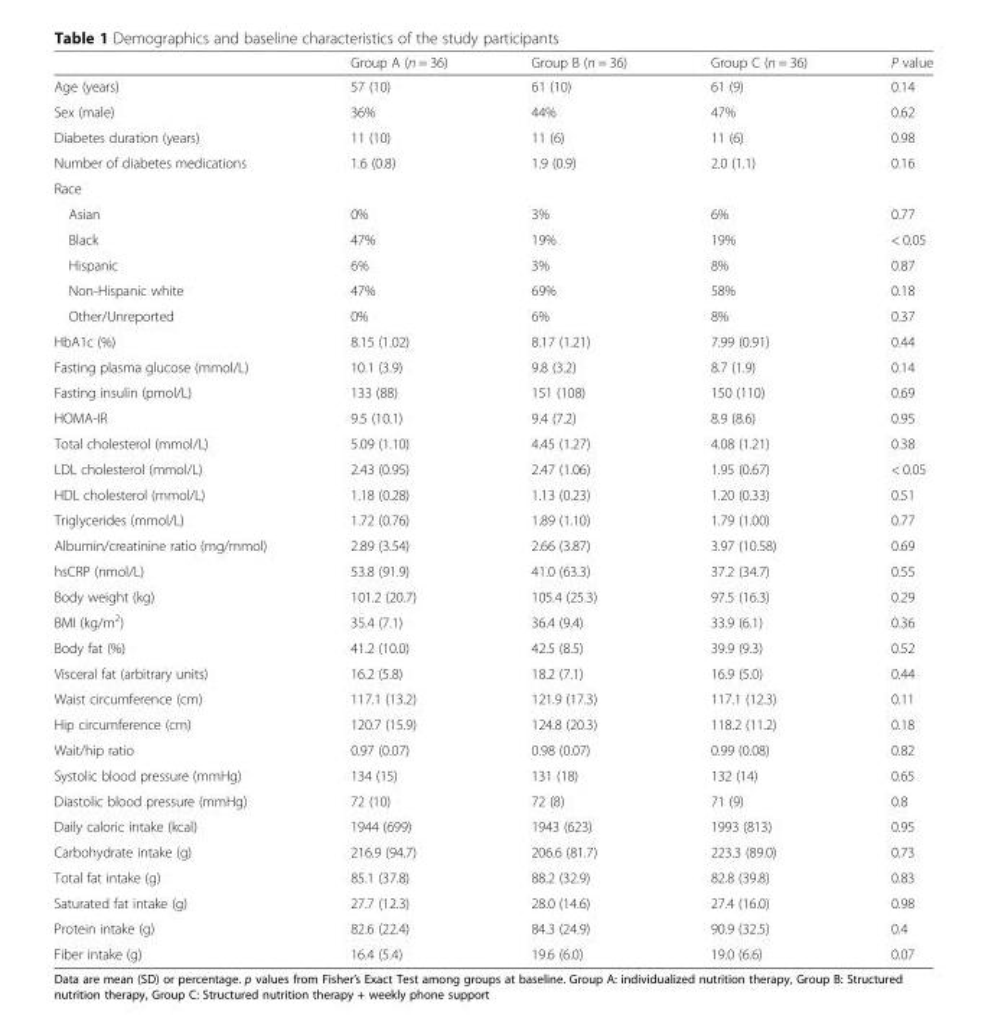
<table><thead><tr><td></td><td>Group A (n = 36)</td><td>Group B (n = 36)</td><td>Group C (n = 36)</td><td>P value</td></tr></thead><tbody><tr><td>Age (years)</td><td>57 (10)</td><td>61 (10)</td><td>61 (9)</td><td>0.14</td></tr><tr><td>Sex (male)</td><td>36%</td><td>44%</td><td>47%</td><td>0.62</td></tr><tr><td>Diabetes duration (years)</td><td>11 (10)</td><td>11 (6)</td><td>11 (6)</td><td>0.98</td></tr><tr><td>Number of diabetes medications</td><td>1.6 (0.8)</td><td>1.9 (0.9)</td><td>2.0 (1.1)</td><td>0.16</td></tr><tr><td colspan="5">Race</td></tr><tr><td>Asian</td><td>0%</td><td>3%</td><td>6%</td><td>0.77</td></tr><tr><td>Black</td><td>47%</td><td>19%</td><td>19%</td><td>&lt; 0.05</td></tr><tr><td>Hispanic</td><td>6%</td><td>3%</td><td>8%</td><td>0.87</td></tr><tr><td>Non-Hispanic white</td><td>47%</td><td>69%</td><td>58%</td><td>0.18</td></tr><tr><td>Other/Unreported</td><td>0%</td><td>6%</td><td>8%</td><td>0.37</td></tr><tr><td>HbA1c (%)</td><td>8.15 (1.02)</td><td>8.17 (1.21)</td><td>7.99 (0.91)</td><td>0.44</td></tr><tr><td>Fasting plasma glucose (mmol/L)</td><td>10.1 (3.9)</td><td>9.8 (3.2)</td><td>8.7 (1.9)</td><td>0.14</td></tr><tr><td>Fasting insulin (pmol/L)</td><td>133 (88)</td><td>151 (108)</td><td>150 (110)</td><td>0.69</td></tr><tr><td>HOMA-IR</td><td>9.5 (10.1)</td><td>9.4 (7.2)</td><td>8.9 (8.6)</td><td>0.95</td></tr><tr><td>Total cholesterol (mmol/L)</td><td>5.09 (1.10)</td><td>4.45 (1.27)</td><td>4.08 (1.21)</td><td>0.38</td></tr><tr><td>LDL cholesterol (mmol/L)</td><td>2.43 (0.95)</td><td>2.47 (1.06)</td><td>1.95 (0.67)</td><td>&lt; 0.05</td></tr><tr><td>HDL cholesterol (mmol/L)</td><td>1.18 (0.28)</td><td>1.13 (0.23)</td><td>1.20 (0.33)</td><td>0.51</td></tr><tr><td>Triglycerides (mmol/L)</td><td>1.72 (0.76)</td><td>1.89 (1.10)</td><td>1.79 (1.00)</td><td>0.77</td></tr><tr><td>Albumin/creatinine ratio (mg/mmol)</td><td>2.89 (3.54)</td><td>2.66 (3.87)</td><td>3.97 (10.58)</td><td>0.69</td></tr><tr><td>hsCRP (nmol/L)</td><td>53.8 (91.9)</td><td>41.0 (63.3)</td><td>37.2 (34.7)</td><td>0.55</td></tr><tr><td>Body weight (kg)</td><td>101.2 (20.7)</td><td>105.4 (25.3)</td><td>97.5 (16.3)</td><td>0.29</td></tr><tr><td>BMI (kg/m<sup>2</sup>)</td><td>35.4 (7.1)</td><td>36.4 (9.4)</td><td>33.9 (6.1)</td><td>0.36</td></tr><tr><td>Body fat (%)</td><td>41.2 (10.0)</td><td>42.5 (8.5)</td><td>39.9 (9.3)</td><td>0.52</td></tr><tr><td>Visceral fat (arbitrary units)</td><td>16.2 (5.8)</td><td>18.2 (7.1)</td><td>16.9 (5.0)</td><td>0.44</td></tr><tr><td>Waist circumference (cm)</td><td>117.1 (13.2)</td><td>121.9 (17.3)</td><td>117.1 (12.3)</td><td>0.11</td></tr><tr><td>Hip circumference (cm)</td><td>120.7 (15.9)</td><td>124.8 (20.3)</td><td>118.2 (11.2)</td><td>0.18</td></tr><tr><td>Wait/hip ratio</td><td>0.97 (0.07)</td><td>0.98 (0.07)</td><td>0.99 (0.08)</td><td>0.82</td></tr><tr><td>Systolic blood pressure (mmHg)</td><td>134 (15)</td><td>131 (18)</td><td>132 (14)</td><td>0.65</td></tr><tr><td>Diastolic blood pressure (mmHg)</td><td>72 (10)</td><td>72 (8)</td><td>71 (9)</td><td>0.8</td></tr><tr><td>Daily caloric intake (kcal)</td><td>1944 (699)</td><td>1943 (623)</td><td>1993 (813)</td><td>0.95</td></tr><tr><td>Carbohydrate intake (g)</td><td>216.9 (94.7)</td><td>206.6 (81.7)</td><td>223.3 (89.0)</td><td>0.73</td></tr><tr><td>Total fat intake (g)</td><td>85.1 (37.8)</td><td>88.2 (32.9)</td><td>82.8 (39.8)</td><td>0.83</td></tr><tr><td>Saturated fat intake (g)</td><td>27.7 (12.3)</td><td>28.0 (14.6)</td><td>27.4 (16.0)</td><td>0.98</td></tr><tr><td>Protein intake (g)</td><td>82.6 (22.4)</td><td>84.3 (24.9)</td><td>90.9 (32.5)</td><td>0.4</td></tr><tr><td>Fiber intake (g)</td><td>16.4 (5.4)</td><td>19.6 (6.0)</td><td>19.0 (6.6)</td><td>0.07</td></tr></tbody></table>